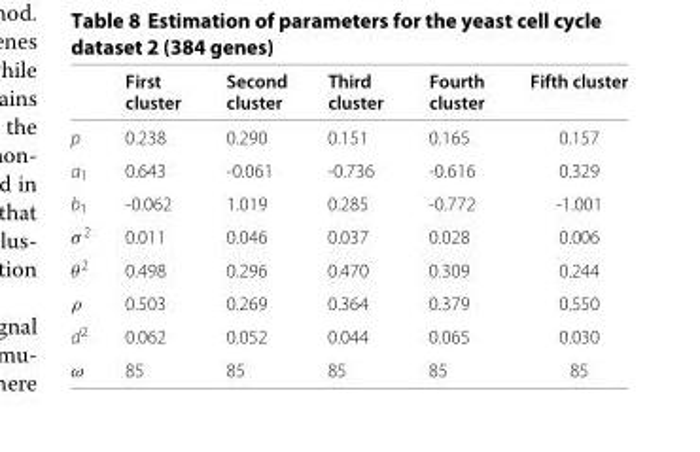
<table><thead><tr><td></td><td>First cluster</td><td>Second cluster</td><td>Third cluster</td><td>Fourth cluster</td><td>Fifth cluster</td></tr></thead><tbody><tr><td>p</td><td>0.238</td><td>0.290</td><td>0.151</td><td>0.165</td><td>0.157</td></tr><tr><td>a<sub>1</sub></td><td>0.643</td><td>-0.061</td><td>-0.736</td><td>-0.616</td><td>0.329</td></tr><tr><td>b<sub>1</sub></td><td>-0.062</td><td>1.019</td><td>0.285</td><td>-0.772</td><td>-1.001</td></tr><tr><td>σ <sup>2</sup></td><td>0.011</td><td>0.046</td><td>0.037</td><td>0.028</td><td>0.006</td></tr><tr><td>θ<sup>2</sup></td><td>0.498</td><td>0.296</td><td>0.470</td><td>0.309</td><td>0.244</td></tr><tr><td>ρ</td><td>0.503</td><td>0.269</td><td>0.364</td><td>0.379</td><td>0.550</td></tr><tr><td>d<sup>2</sup></td><td>0.062</td><td>0.052</td><td>0.044</td><td>0.065</td><td>0.030</td></tr><tr><td>ω</td><td>85</td><td>85</td><td>85</td><td>85</td><td>85</td></tr></tbody></table>